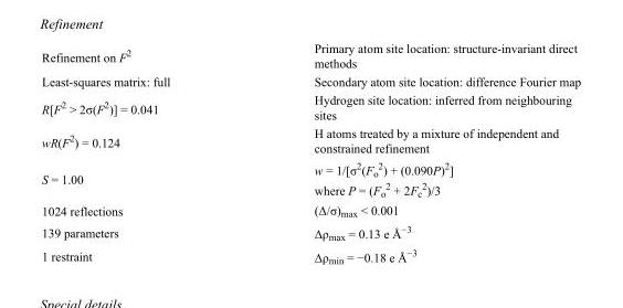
<table><tbody><tr><td>Refinement on F<sup>2</sup></td><td>Primary atom site location: structure-invariant direct methods</td></tr><tr><td>Least-squares matrix: full</td><td>Secondary atom site location: difference Fourier map</td></tr><tr><td>R[F<sup>2</sup> &gt; 2σ(F<sup>2</sup>)] = 0.041</td><td>Hydrogen site location: inferred from neighbouring sites</td></tr><tr><td>wR(F<sup>2</sup>) = 0.124</td><td>H atoms treated by a mixture of independent and constrained refinement</td></tr><tr><td>S = 1.00</td><td>w = 1/[σ<sup>2</sup>(F<sub>o</sub> <sup>2</sup>) + (0.090P)<sup>2</sup>] where P = (F<sub>o</sub> <sup>2</sup> + 2F<sub>c</sub> <sup>2</sup>)/3</td></tr><tr><td>1024 reflections</td><td>(Δ/σ)<sub>max</sub> &lt; 0.001</td></tr><tr><td>139 parameters</td><td>Δρ<sub>max</sub> = 0.13 e Å<sup>−3</sup></td></tr><tr><td>1 restraint</td><td>Δρ<sub>min</sub> = −0.18 e Å<sup>−3</sup></td></tr></tbody></table>